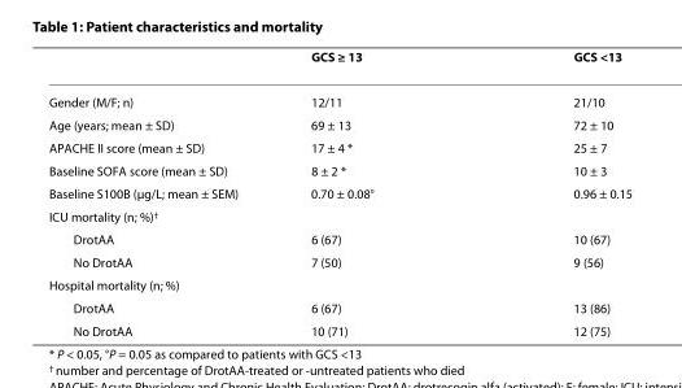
<table><thead><tr><td></td><td>GCS ≥ 13</td><td>GCS &lt;13</td></tr></thead><tbody><tr><td>Gender (M/F; n)</td><td>12/11</td><td>21/10</td></tr><tr><td>Age (years; mean ± SD)</td><td>69 ± 13</td><td>72 ± 10</td></tr><tr><td>APACHE II score (mean ± SD)</td><td>17 ± 4 *</td><td>25 ± 7</td></tr><tr><td>Baseline SOFA score (mean ± SD)</td><td>8 ± 2 *</td><td>10 ± 3</td></tr><tr><td>Baseline S100B (μg/L; mean ± SEM)</td><td>0.70 ± 0.08°</td><td>0.96 ± 0.15</td></tr><tr><td colspan="3">ICU mortality (n; %)<sup>†</sup></td></tr><tr><td>DrotAA</td><td>6 (67)</td><td>10 (67)</td></tr><tr><td>No DrotAA</td><td>7 (50)</td><td>9 (56)</td></tr><tr><td colspan="3">Hospital mortality (n; %)</td></tr><tr><td>DrotAA</td><td>6 (67)</td><td>13 (86)</td></tr><tr><td>No DrotAA</td><td>10 (71)</td><td>12 (75)</td></tr></tbody></table>